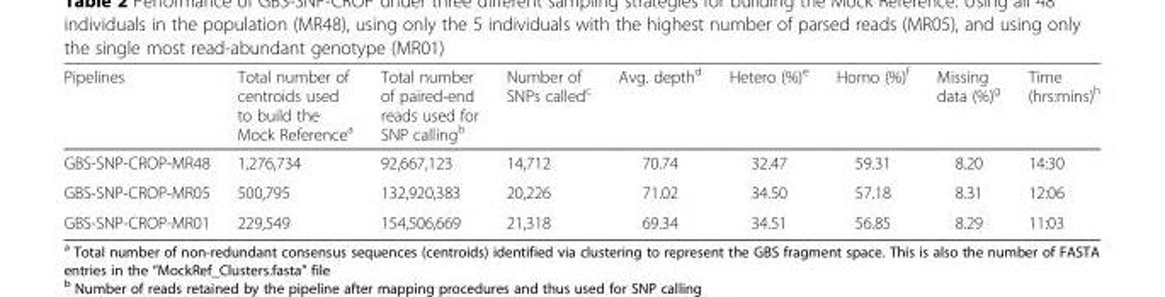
<table><thead><tr><td>Pipelines</td><td>Total number of centroids used to build the Mock Reference<sup>a</sup></td><td>Total number of paired-end reads used for SNP calling<sup>b</sup></td><td>Number of SNPs called<sup>c</sup></td><td>Avg. depth<sup>d</sup></td><td>Hetero (%)<sup>e</sup></td><td>Homo (%)<sup>f</sup></td><td>Missing data (%)<sup>g</sup></td><td>Time (hrs:mins)<sup>h</sup></td></tr></thead><tbody><tr><td>GBS-SNP-CROP-MR48</td><td>1,276,734</td><td>92,667,123</td><td>14,712</td><td>70.74</td><td>32.47</td><td>59.31</td><td>8.20</td><td>14:30</td></tr><tr><td>GBS-SNP-CROP-MR05</td><td>500,795</td><td>132,920,383</td><td>20,226</td><td>71.02</td><td>34.50</td><td>57.18</td><td>8.31</td><td>12:06</td></tr><tr><td>GBS-SNP-CROP-MR01</td><td>229,549</td><td>154,506,669</td><td>21,318</td><td>69.34</td><td>34.51</td><td>56.85</td><td>8.29</td><td>11:03</td></tr></tbody></table>